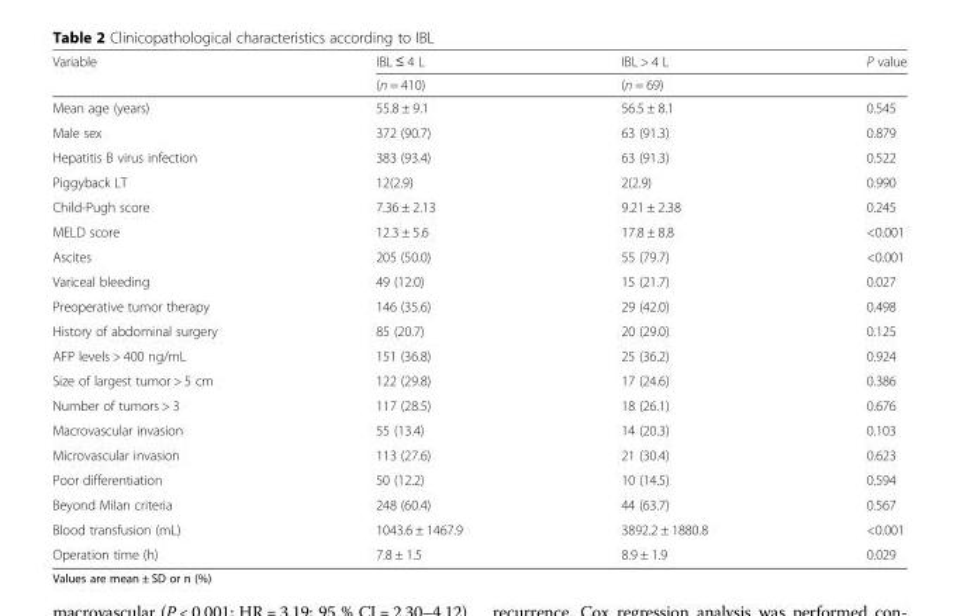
<table><thead><tr><td rowspan="2">Variable</td><td rowspan="2">IBL ≤ 4 L (n = 410)</td><td rowspan="2">IBL &gt; 4 L (n = 69)</td><td rowspan="2">P value</td></tr><tr></tr></thead><tbody><tr><td>Mean age (years)</td><td>55.8 ± 9.1</td><td>56.5 ± 8.1</td><td>0.545</td></tr><tr><td>Male sex</td><td>372 (90.7)</td><td>63 (91.3)</td><td>0.879</td></tr><tr><td>Hepatitis B virus infection</td><td>383 (93.4)</td><td>63 (91.3)</td><td>0.522</td></tr><tr><td>Piggyback LT</td><td>12(2.9)</td><td>2(2.9)</td><td>0.990</td></tr><tr><td>Child-Pugh score</td><td>7.36 ± 2.13</td><td>9.21 ± 2.38</td><td>0.245</td></tr><tr><td>MELD score</td><td>12.3 ± 5.6</td><td>17.8 ± 8.8</td><td>&lt;0.001</td></tr><tr><td>Ascites</td><td>205 (50.0)</td><td>55 (79.7)</td><td>&lt;0.001</td></tr><tr><td>Variceal bleeding</td><td>49 (12.0)</td><td>15 (21.7)</td><td>0.027</td></tr><tr><td>Preoperative tumor therapy</td><td>146 (35.6)</td><td>29 (42.0)</td><td>0.498</td></tr><tr><td>History of abdominal surgery</td><td>85 (20.7)</td><td>20 (29.0)</td><td>0.125</td></tr><tr><td>AFP levels &gt; 400 ng/mL</td><td>151 (36.8)</td><td>25 (36.2)</td><td>0.924</td></tr><tr><td>Size of largest tumor &gt; 5 cm</td><td>122 (29.8)</td><td>17 (24.6)</td><td>0.386</td></tr><tr><td>Number of tumors &gt; 3</td><td>117 (28.5)</td><td>18 (26.1)</td><td>0.676</td></tr><tr><td>Macrovascular invasion</td><td>55 (13.4)</td><td>14 (20.3)</td><td>0.103</td></tr><tr><td>Microvascular invasion</td><td>113 (27.6)</td><td>21 (30.4)</td><td>0.623</td></tr><tr><td>Poor differentiation</td><td>50 (12.2)</td><td>10 (14.5)</td><td>0.594</td></tr><tr><td>Beyond Milan criteria</td><td>248 (60.4)</td><td>44 (63.7)</td><td>0.567</td></tr><tr><td>Blood transfusion (mL)</td><td>1043.6 ± 1467.9</td><td>3892.2 ± 1880.8</td><td>&lt;0.001</td></tr><tr><td>Operation time (h)</td><td>7.8 ± 1.5</td><td>8.9 ± 1.9</td><td>0.029</td></tr></tbody></table>